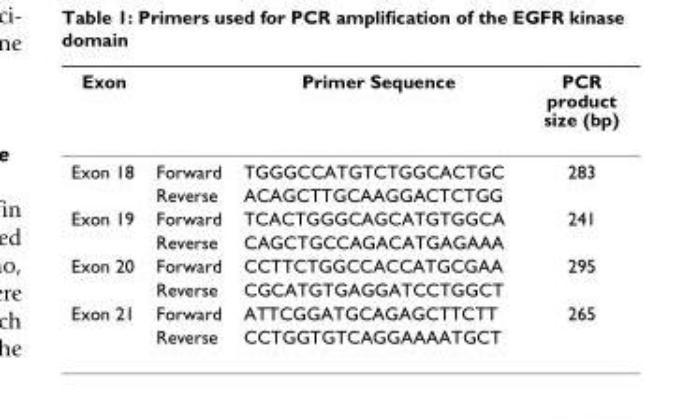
<table><thead><tr><td>Exon</td><td></td><td>Primer Sequence</td><td>PCR product size (bp)</td></tr></thead><tbody><tr><td rowspan="2">Exon 18</td><td>Forward</td><td>TGGGCCATGTCTGGCACTGC</td><td>283</td></tr><tr><td>Reverse</td><td>ACAGCTTGCAAGGACTCTGG</td><td></td></tr><tr><td rowspan="2">Exon 19</td><td>Forward</td><td>TCACTGGGCAGCATGTGGCA</td><td>241</td></tr><tr><td>Reverse</td><td>CAGCTGCCAGACATGAGAAA</td><td></td></tr><tr><td rowspan="2">Exon 20</td><td>Forward</td><td>CCTTCTGGCCACCATGCGAA</td><td>295</td></tr><tr><td>Reverse</td><td>CGCATGTGAGGATCCTGGCT</td><td></td></tr><tr><td rowspan="2">Exon 21</td><td>Forward</td><td>ATTCGGATGCAGAGCTTCTT</td><td>265</td></tr><tr><td>Reverse</td><td>CCTGGTGTCAGGAAAATGCT</td><td></td></tr></tbody></table>